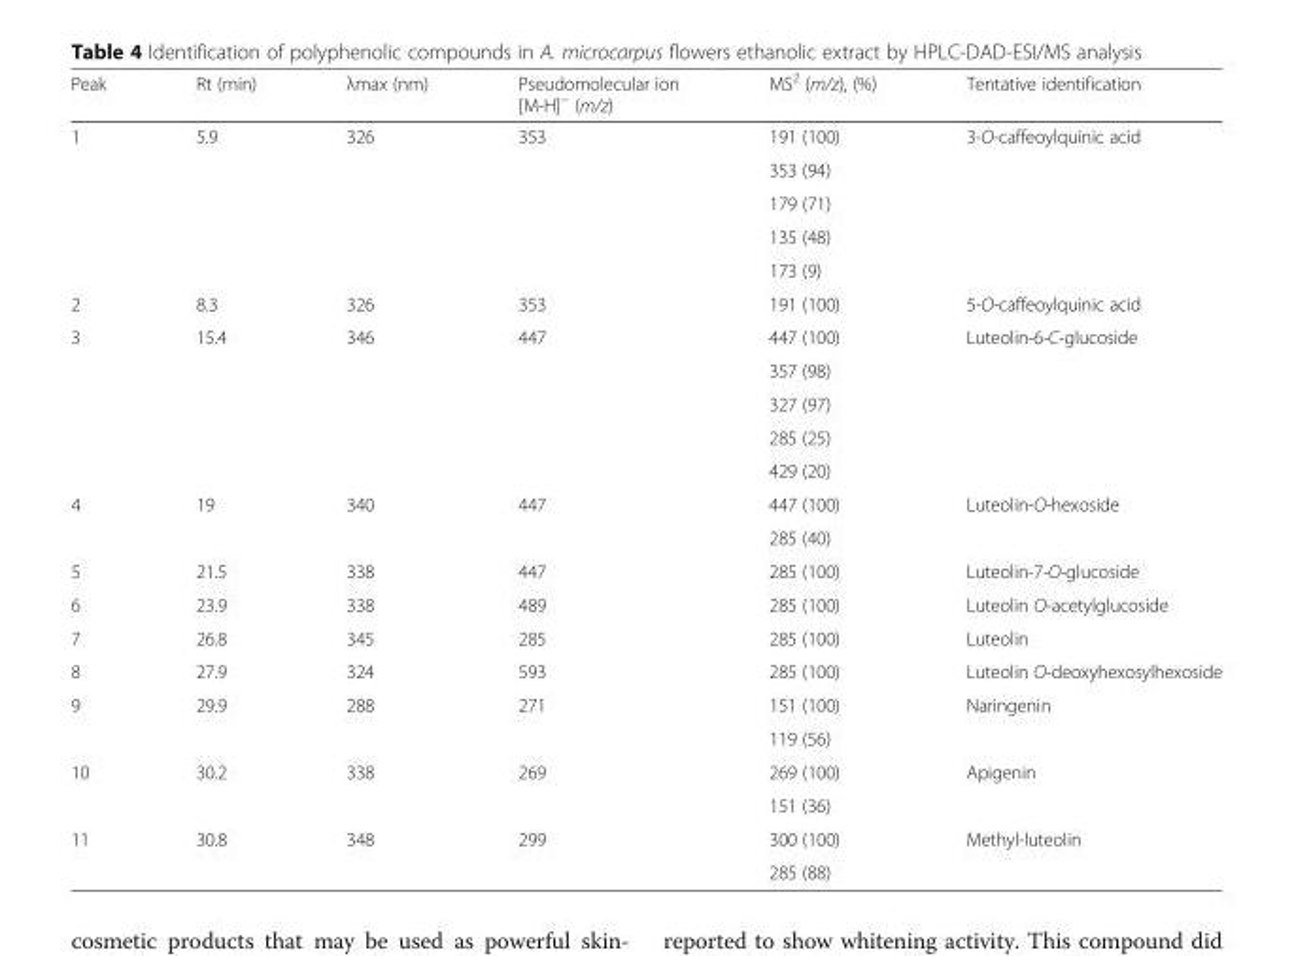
<table><thead><tr><td>Peak</td><td>Rt (min)</td><td>λmax (nm)</td><td>Pseudomolecular ion [M-H]<sup>−</sup> (m/z)</td><td>MS<sup>2</sup> (m/z), (%)</td><td>Tentative identification</td></tr></thead><tbody><tr><td rowspan="5">1</td><td rowspan="5">5.9</td><td rowspan="5">326</td><td rowspan="5">353</td><td>191 (100)</td><td rowspan="5">3-O-caffeoylquinic acid</td></tr><tr><td>353 (94)</td></tr><tr><td>179 (71)</td></tr><tr><td>135 (48)</td></tr><tr><td>173 (9)</td></tr><tr><td>2</td><td>8.3</td><td>326</td><td>353</td><td>191 (100)</td><td>5-O-caffeoylquinic acid</td></tr><tr><td rowspan="5">3</td><td rowspan="5">15.4</td><td rowspan="5">346</td><td rowspan="5">447</td><td>447 (100)</td><td rowspan="5">Luteolin-6-C-glucoside</td></tr><tr><td>357 (98)</td></tr><tr><td>327 (97)</td></tr><tr><td>285 (25)</td></tr><tr><td>429 (20)</td></tr><tr><td rowspan="2">4</td><td rowspan="2">19</td><td rowspan="2">340</td><td rowspan="2">447</td><td>447 (100)</td><td rowspan="2">Luteolin-O-hexoside</td></tr><tr><td>285 (40)</td></tr><tr><td>5</td><td>21.5</td><td>338</td><td>447</td><td>285 (100)</td><td>Luteolin-7-O-glucoside</td></tr><tr><td>6</td><td>23.9</td><td>338</td><td>489</td><td>285 (100)</td><td>Luteolin O-acetylglucoside</td></tr><tr><td>7</td><td>26.8</td><td>345</td><td>285</td><td>285 (100)</td><td>Luteolin</td></tr><tr><td>8</td><td>27.9</td><td>324</td><td>593</td><td>285 (100)</td><td>Luteolin O-deoxyhexosylhexoside</td></tr><tr><td rowspan="2">9</td><td rowspan="2">29.9</td><td rowspan="2">288</td><td rowspan="2">271</td><td>151 (100)</td><td rowspan="2">Naringenin</td></tr><tr><td>119 (56)</td></tr><tr><td rowspan="2">10</td><td rowspan="2">30.2</td><td rowspan="2">338</td><td rowspan="2">269</td><td>269 (100)</td><td rowspan="2">Apigenin</td></tr><tr><td>151 (36)</td></tr><tr><td rowspan="2">11</td><td rowspan="2">30.8</td><td rowspan="2">348</td><td rowspan="2">299</td><td>300 (100)</td><td rowspan="2">Methyl-luteolin</td></tr><tr><td>285 (88)</td></tr></tbody></table>